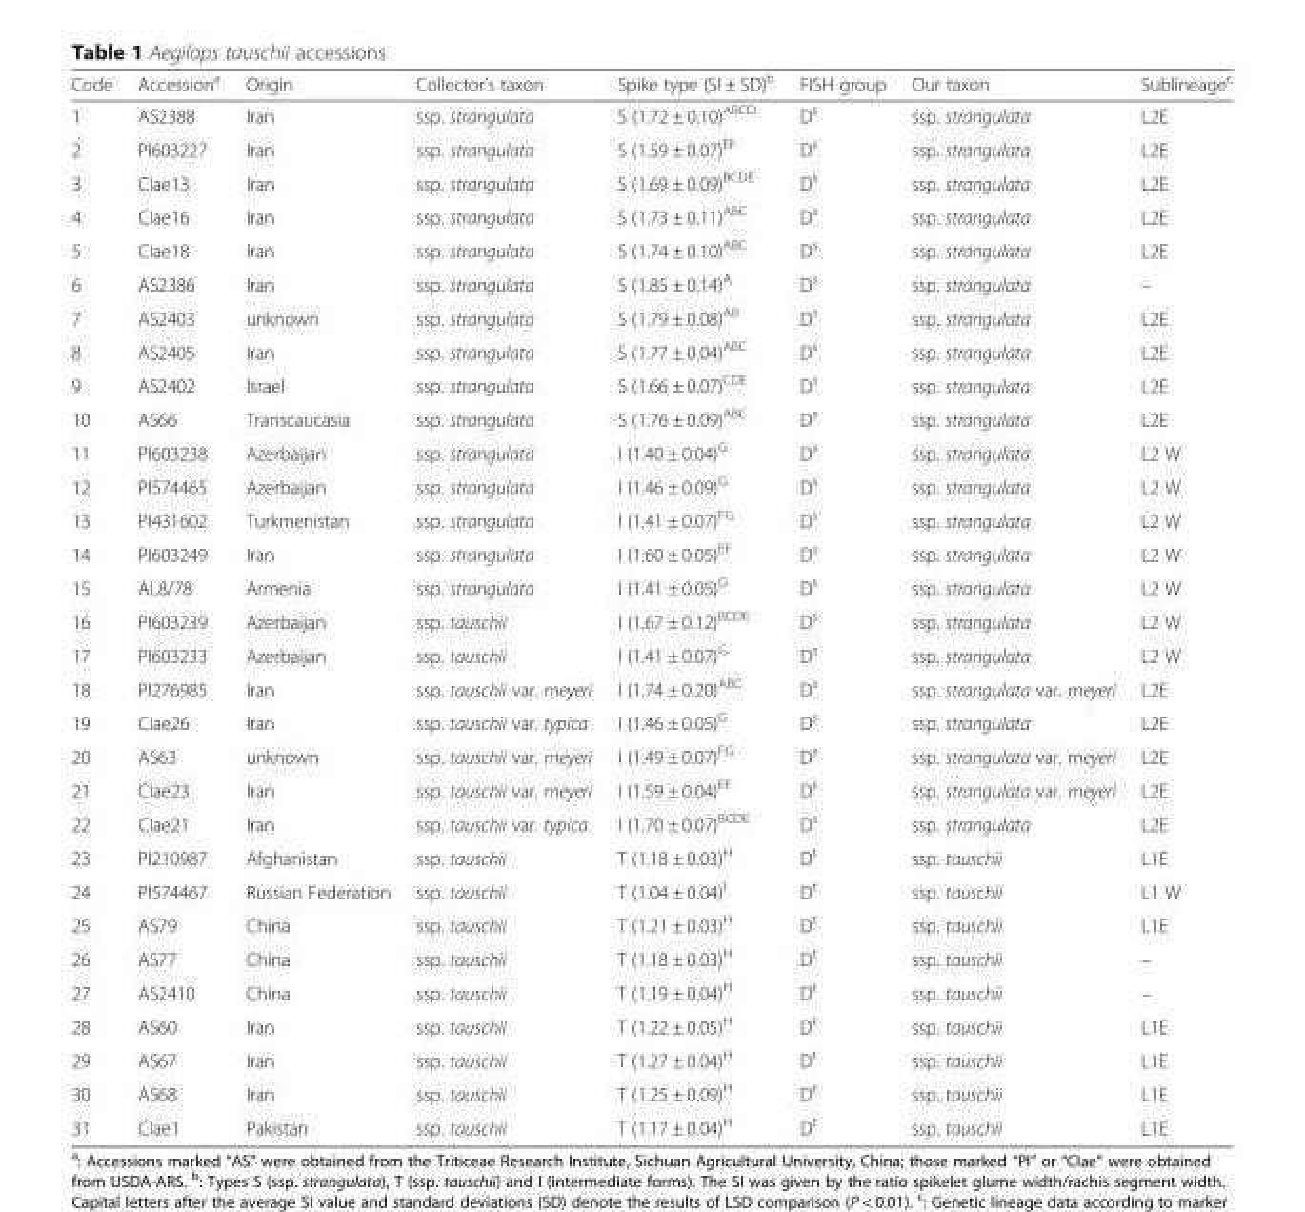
<table><thead><tr><td>Code</td><td>Accession<sup>a</sup></td><td>Origin</td><td>Collector’s taxon</td><td>Spike type (SI ± SD)<sup>b</sup></td><td>FISH group</td><td>Our taxon</td><td>Sublineage<sup>c</sup></td></tr></thead><tbody><tr><td>1</td><td>AS2388</td><td>Iran</td><td>ssp. strangulata</td><td>S (1.72 ± 0.10)<sup>ABCD</sup></td><td>D<sup>s</sup></td><td>ssp. strangulata</td><td>L2E</td></tr><tr><td>2</td><td>PI603227</td><td>Iran</td><td>ssp. strangulata</td><td>S (1.59 ± 0.07)<sup>EF</sup></td><td>D<sup>s</sup></td><td>ssp. strangulata</td><td>L2E</td></tr><tr><td>3</td><td>CIae13</td><td>Iran</td><td>ssp. strangulata</td><td>S (1.69 ± 0.09)<sup>BCDE</sup></td><td>D<sup>s</sup></td><td>ssp. strangulata</td><td>L2E</td></tr><tr><td>4</td><td>CIae16</td><td>Iran</td><td>ssp. strangulata</td><td>S (1.73 ± 0.11)<sup>ABC</sup></td><td>D<sup>s</sup></td><td>ssp. strangulata</td><td>L2E</td></tr><tr><td>5</td><td>CIae18</td><td>Iran</td><td>ssp. strangulata</td><td>S (1.74 ± 0.10)<sup>ABC</sup></td><td>D<sup>s</sup></td><td>ssp. strangulata</td><td>L2E</td></tr><tr><td>6</td><td>AS2386</td><td>Iran</td><td>ssp. strangulata</td><td>S (1.85 ± 0.14)<sup>A</sup></td><td>D<sup>s</sup></td><td>ssp. strangulata</td><td>–</td></tr><tr><td>7</td><td>AS2403</td><td>unknown</td><td>ssp. strangulata</td><td>S (1.79 ± 0.08)<sup>AB</sup></td><td>D<sup>s</sup></td><td>ssp. strangulata</td><td>L2E</td></tr><tr><td>8</td><td>AS2405</td><td>Iran</td><td>ssp. strangulata</td><td>S (1.77 ± 0.04)<sup>ABC</sup></td><td>D<sup>s</sup></td><td>ssp. strangulata</td><td>L2E</td></tr><tr><td>9</td><td>AS2402</td><td>Israel</td><td>ssp. strangulata</td><td>S (1.66 ± 0.07)<sup>CDE</sup></td><td>D<sup>s</sup></td><td>ssp. strangulata</td><td>L2E</td></tr><tr><td>10</td><td>AS66</td><td>Transcaucasia</td><td>ssp. strangulata</td><td>S (1.76 ± 0.09)<sup>ABC</sup></td><td>D<sup>s</sup></td><td>ssp. strangulata</td><td>L2E</td></tr><tr><td>11</td><td>PI603238</td><td>Azerbaijan</td><td>ssp. strangulata</td><td>I (1.40 ± 0.04)<sup>G</sup></td><td>D<sup>s</sup></td><td>ssp. strangulata</td><td>L2 W</td></tr><tr><td>12</td><td>PI574465</td><td>Azerbaijan</td><td>ssp. strangulata</td><td>I (1.46 ± 0.09)<sup>G</sup></td><td>D<sup>s</sup></td><td>ssp. strangulata</td><td>L2 W</td></tr><tr><td>13</td><td>PI431602</td><td>Turkmenistan</td><td>ssp. strangulata</td><td>I (1.41 ± 0.07)<sup>FG</sup></td><td>D<sup>s</sup></td><td>ssp. strangulata</td><td>L2 W</td></tr><tr><td>14</td><td>PI603249</td><td>Iran</td><td>ssp. strangulata</td><td>I (1.60 ± 0.05)<sup>EF</sup></td><td>D<sup>s</sup></td><td>ssp. strangulata</td><td>L2 W</td></tr><tr><td>15</td><td>AL8/78</td><td>Armenia</td><td>ssp. strangulata</td><td>I (1.41 ± 0.05)<sup>G</sup></td><td>D<sup>s</sup></td><td>ssp. strangulata</td><td>L2 W</td></tr><tr><td>16</td><td>PI603239</td><td>Azerbaijan</td><td>ssp. tauschii</td><td>I (1.67 ± 0.12)<sup>BCDE</sup></td><td>D<sup>s</sup></td><td>ssp. strangulata</td><td>L2 W</td></tr><tr><td>17</td><td>PI603233</td><td>Azerbaijan</td><td>ssp. tauschii</td><td>I (1.41 ± 0.07)<sup>G</sup></td><td>D<sup>s</sup></td><td>ssp. strangulata</td><td>L2 W</td></tr><tr><td>18</td><td>PI276985</td><td>Iran</td><td>ssp. tauschii var. meyeri</td><td>I (1.74 ± 0.20)<sup>ABC</sup></td><td>D<sup>s</sup></td><td>ssp. strangulata var. meyeri</td><td>L2E</td></tr><tr><td>19</td><td>CIae26</td><td>Iran</td><td>ssp. tauschii var. typica</td><td>I (1.46 ± 0.05)<sup>G</sup></td><td>D<sup>s</sup></td><td>ssp. strangulata</td><td>L2E</td></tr><tr><td>20</td><td>AS63</td><td>unknown</td><td>ssp. tauschii var. meyeri</td><td>I (1.49 ± 0.07)<sup>FG</sup></td><td>D<sup>s</sup></td><td>ssp. strangulata var. meyeri</td><td>L2E</td></tr><tr><td>21</td><td>CIae23</td><td>Iran</td><td>ssp. tauschii var. meyeri</td><td>I (1.59 ± 0.04)<sup>EF</sup></td><td>D<sup>s</sup></td><td>ssp. strangulata var. meyeri</td><td>L2E</td></tr><tr><td>22</td><td>CIae21</td><td>Iran</td><td>ssp. tauschii var. typica</td><td>I (1.70 ± 0.07)<sup>BCDE</sup></td><td>D<sup>s</sup></td><td>ssp. strangulata</td><td>L2E</td></tr><tr><td>23</td><td>PI210987</td><td>Afghanistan</td><td>ssp. tauschii</td><td>T (1.18 ± 0.03)<sup>H</sup></td><td>D<sup>t</sup></td><td>ssp. tauschii</td><td>L1E</td></tr><tr><td>24</td><td>PI574467</td><td>Russian Federation</td><td>ssp. tauschii</td><td>T (1.04 ± 0.04)<sup>I</sup></td><td>D<sup>t</sup></td><td>ssp. tauschii</td><td>L1 W</td></tr><tr><td>25</td><td>AS79</td><td>China</td><td>ssp. tauschii</td><td>T (1.21 ± 0.03)<sup>H</sup></td><td>D<sup>t</sup></td><td>ssp. tauschii</td><td>L1E</td></tr><tr><td>26</td><td>AS77</td><td>China</td><td>ssp. tauschii</td><td>T (1.18 ± 0.03)<sup>H</sup></td><td>D<sup>t</sup></td><td>ssp. tauschii</td><td>–</td></tr><tr><td>27</td><td>AS2410</td><td>China</td><td>ssp. tauschii</td><td>T (1.19 ± 0.04)<sup>H</sup></td><td>D<sup>t</sup></td><td>ssp. tauschii</td><td>–</td></tr><tr><td>28</td><td>AS60</td><td>Iran</td><td>ssp. tauschii</td><td>T (1.22 ± 0.05)<sup>H</sup></td><td>D<sup>t</sup></td><td>ssp. tauschii</td><td>L1E</td></tr><tr><td>29</td><td>AS67</td><td>Iran</td><td>ssp. tauschii</td><td>T (1.27 ± 0.04)<sup>H</sup></td><td>D<sup>t</sup></td><td>ssp. tauschii</td><td>L1E</td></tr><tr><td>30</td><td>AS68</td><td>Iran</td><td>ssp. tauschii</td><td>T (1.25 ± 0.09)<sup>H</sup></td><td>D<sup>t</sup></td><td>ssp. tauschii</td><td>L1E</td></tr><tr><td>31</td><td>CIae1</td><td>Pakistan</td><td>ssp. tauschii</td><td>T (1.17 ± 0.04)<sup>H</sup></td><td>D<sup>t</sup></td><td>ssp. tauschii</td><td>L1E</td></tr></tbody></table>